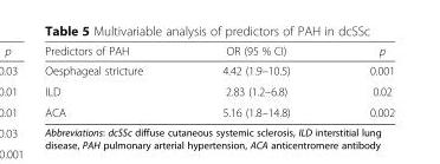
<table><thead><tr><td>Predictors of PAH</td><td>OR (95 % CI)</td><td>p</td></tr></thead><tbody><tr><td>Oesphageal stricture</td><td>4.42 (1.9–10.5)</td><td>0.001</td></tr><tr><td>ILD</td><td>2.83 (1.2–6.8)</td><td>0.02</td></tr><tr><td>ACA</td><td>5.16 (1.8–14.8)</td><td>0.002</td></tr></tbody></table>